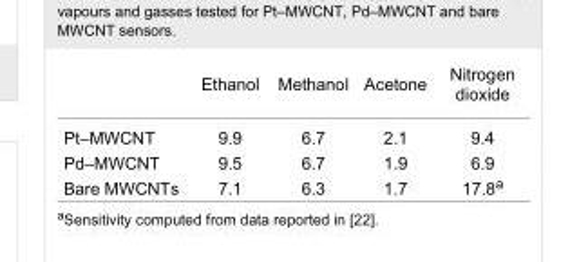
<table><thead><tr><td></td><td>Ethanol</td><td>Methanol</td><td>Acetone</td><td>Nitrogen dioxide</td></tr></thead><tbody><tr><td>Pt–MWCNT</td><td>9.9</td><td>6.7</td><td>2.1</td><td>9.4</td></tr><tr><td>Pd–MWCNT</td><td>9.5</td><td>6.7</td><td>1.9</td><td>6.9</td></tr><tr><td>Bare MWCNTs</td><td>7.1</td><td>6.3</td><td>1.7</td><td>17.8<sup>a</sup></td></tr></tbody></table>